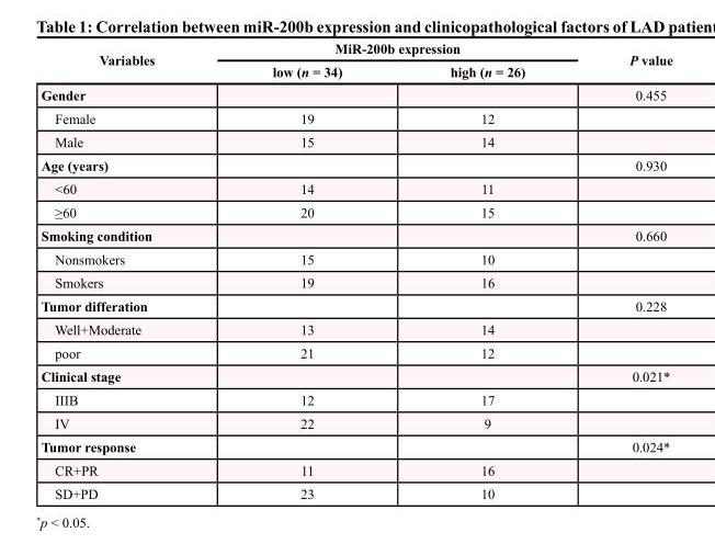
<table><thead><tr><td rowspan="2">Variables</td><td colspan="2">MiR-200b expression</td><td rowspan="2">P value</td></tr><tr><td>low (n = 34)</td><td>high (n = 26)</td></tr></thead><tbody><tr><td>Gender</td><td></td><td></td><td>0.455</td></tr><tr><td>Female</td><td>19</td><td>12</td><td></td></tr><tr><td>Male</td><td>15</td><td>14</td><td></td></tr><tr><td>Age (years)</td><td></td><td></td><td>0.930</td></tr><tr><td>&lt;60</td><td>14</td><td>11</td><td></td></tr><tr><td>≥60</td><td>20</td><td>15</td><td></td></tr><tr><td>Smoking condition</td><td></td><td></td><td>0.660</td></tr><tr><td>Nonsmokers</td><td>15</td><td>10</td><td></td></tr><tr><td>Smokers</td><td>19</td><td>16</td><td></td></tr><tr><td>Tumor differation</td><td></td><td></td><td>0.228</td></tr><tr><td>Well+Moderate</td><td>13</td><td>14</td><td></td></tr><tr><td>poor</td><td>21</td><td>12</td><td></td></tr><tr><td>Clinical stage</td><td></td><td></td><td>0.021*</td></tr><tr><td>IIIB</td><td>12</td><td>17</td><td></td></tr><tr><td>IV</td><td>22</td><td>9</td><td></td></tr><tr><td>Tumor response</td><td></td><td></td><td>0.024*</td></tr><tr><td>CR+PR</td><td>11</td><td>16</td><td></td></tr><tr><td>SD+PD</td><td>23</td><td>10</td><td></td></tr></tbody></table>